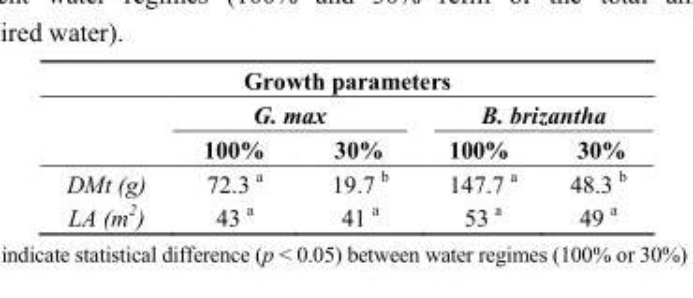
<table><thead><tr><td colspan="5">Growth parameters</td></tr><tr><td rowspan="2"></td><td colspan="2">G. max</td><td colspan="2">B. brizantha</td></tr><tr><td>100%</td><td>30%</td><td>100%</td><td>30%</td></tr></thead><tbody><tr><td>DMt (g)</td><td>72.3 <sup>a</sup></td><td>19.7 <sup>b</sup></td><td>147.7 <sup>a</sup></td><td>48.3 <sup>b</sup></td></tr><tr><td>LA (m<sup>2</sup>)</td><td>43 <sup>a</sup></td><td>41 <sup>a</sup></td><td>53 <sup>a</sup></td><td>49 <sup>a</sup></td></tr></tbody></table>